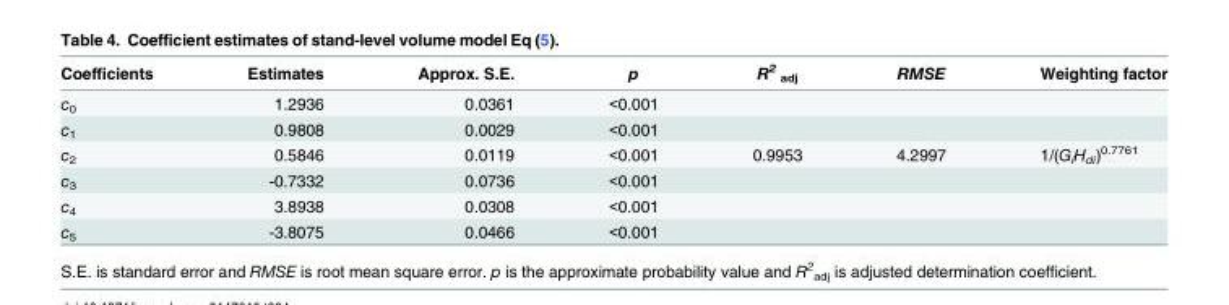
<table><thead><tr><td>Coefficients</td><td>Estimates</td><td>Approx. S.E.</td><td>p</td><td>R<sup>2</sup> <sub>adj</sub></td><td>RMSE</td><td>Weighting factor</td></tr></thead><tbody><tr><td>c<sub>0</sub></td><td>1.2936</td><td>0.0361</td><td>&lt;0.001</td><td></td><td></td><td></td></tr><tr><td>c<sub>1</sub></td><td>0.9808</td><td>0.0029</td><td>&lt;0.001</td><td></td><td></td><td></td></tr><tr><td>c<sub>2</sub></td><td>0.5846</td><td>0.0119</td><td>&lt;0.001</td><td>0.9953</td><td>4.2997</td><td>1/(G<sub>i</sub>H<sub>di</sub>)<sup>0.7761</sup></td></tr><tr><td>c<sub>3</sub></td><td>-0.7332</td><td>0.0736</td><td>&lt;0.001</td><td></td><td></td><td></td></tr><tr><td>c<sub>4</sub></td><td>3.8938</td><td>0.0308</td><td>&lt;0.001</td><td></td><td></td><td></td></tr><tr><td>c<sub>5</sub></td><td>-3.8075</td><td>0.0466</td><td>&lt;0.001</td><td></td><td></td><td></td></tr></tbody></table>